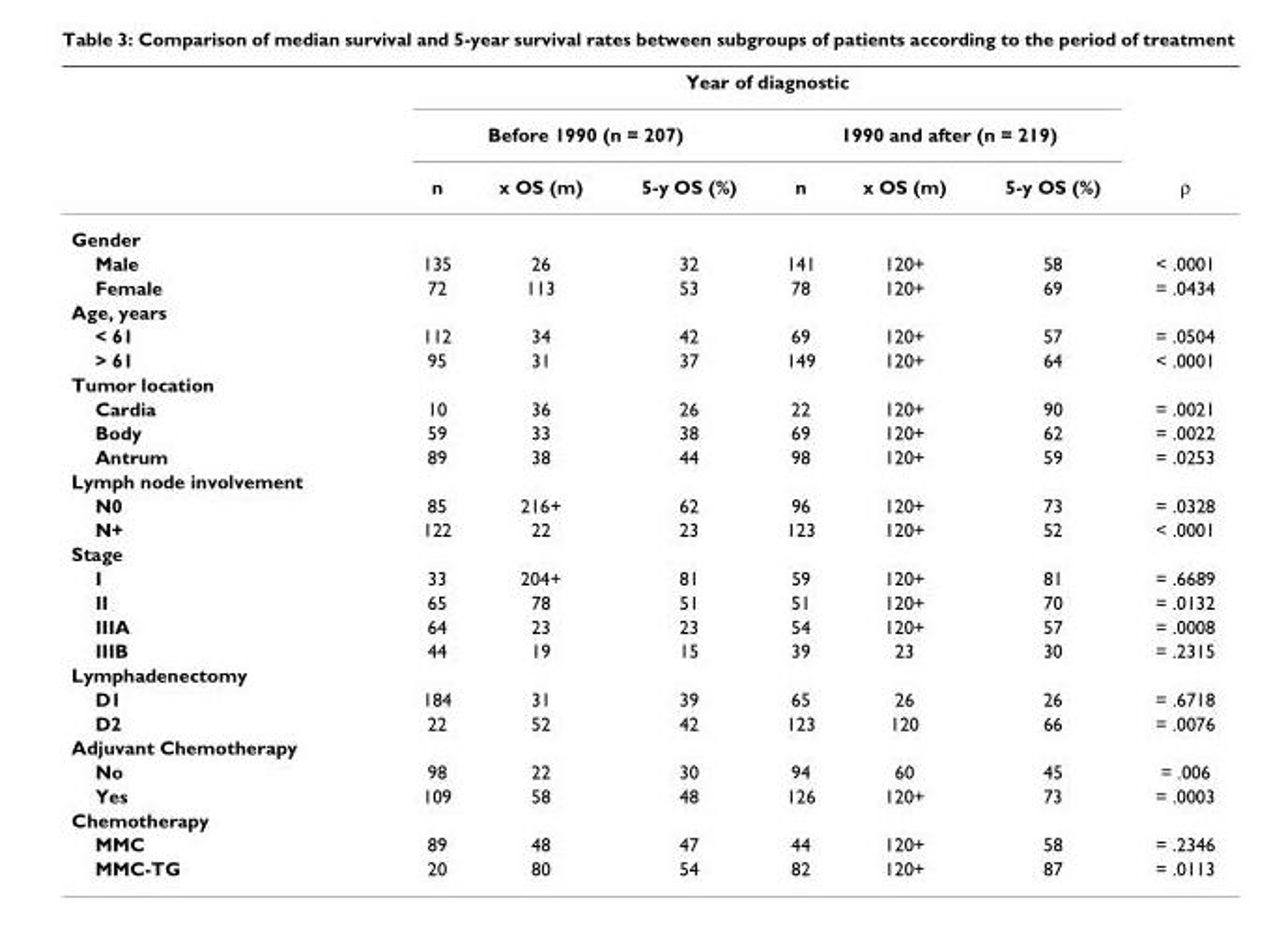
<table><thead><tr><td rowspan="3"></td><td colspan="6">Year of diagnostic</td><td rowspan="3">ρ</td></tr><tr><td colspan="3">Before 1990 (n = 207)</td><td colspan="3">1990 and after (n = 219)</td></tr><tr><td>n</td><td>x OS (m)</td><td>5-y OS (%)</td><td>n</td><td>x OS (m)</td><td>5-y OS (%)</td></tr></thead><tbody><tr><td colspan="8">Gender</td></tr><tr><td>Male</td><td>135</td><td>26</td><td>32</td><td>141</td><td>120+</td><td>58</td><td>&lt; .0001</td></tr><tr><td>Female</td><td>72</td><td>113</td><td>53</td><td>78</td><td>120+</td><td>69</td><td>= .0434</td></tr><tr><td colspan="8">Age, years</td></tr><tr><td>&lt; 61</td><td>112</td><td>34</td><td>42</td><td>69</td><td>120+</td><td>57</td><td>= .0504</td></tr><tr><td>&gt; 61</td><td>95</td><td>31</td><td>37</td><td>149</td><td>120+</td><td>64</td><td>&lt; .0001</td></tr><tr><td colspan="8">Tumor location</td></tr><tr><td>Cardia</td><td>10</td><td>36</td><td>26</td><td>22</td><td>120+</td><td>90</td><td>= .0021</td></tr><tr><td>Body</td><td>59</td><td>33</td><td>38</td><td>69</td><td>120+</td><td>62</td><td>= .0022</td></tr><tr><td>Antrum</td><td>89</td><td>38</td><td>44</td><td>98</td><td>120+</td><td>59</td><td>= .0253</td></tr><tr><td colspan="8">Lymph node involvement</td></tr><tr><td>N0</td><td>85</td><td>216+</td><td>62</td><td>96</td><td>120+</td><td>73</td><td>= .0328</td></tr><tr><td>N+</td><td>122</td><td>22</td><td>23</td><td>123</td><td>120+</td><td>52</td><td>&lt; .0001</td></tr><tr><td colspan="8">Stage</td></tr><tr><td>I</td><td>33</td><td>204+</td><td>81</td><td>59</td><td>120+</td><td>81</td><td>= .6689</td></tr><tr><td>II</td><td>65</td><td>78</td><td>51</td><td>51</td><td>120+</td><td>70</td><td>= .0132</td></tr><tr><td>IIIA</td><td>64</td><td>23</td><td>23</td><td>54</td><td>120+</td><td>57</td><td>= .0008</td></tr><tr><td>IIIB</td><td>44</td><td>19</td><td>15</td><td>39</td><td>23</td><td>30</td><td>= .2315</td></tr><tr><td colspan="8">Lymphadenectomy</td></tr><tr><td>D1</td><td>184</td><td>31</td><td>39</td><td>65</td><td>26</td><td>26</td><td>= .6718</td></tr><tr><td>D2</td><td>22</td><td>52</td><td>42</td><td>123</td><td>120</td><td>66</td><td>= .0076</td></tr><tr><td colspan="8">Adjuvant Chemotherapy</td></tr><tr><td>No</td><td>98</td><td>22</td><td>30</td><td>94</td><td>60</td><td>45</td><td>= .006</td></tr><tr><td>Yes</td><td>109</td><td>58</td><td>48</td><td>126</td><td>120+</td><td>73</td><td>= .0003</td></tr><tr><td colspan="8">Chemotherapy</td></tr><tr><td>MMC</td><td>89</td><td>48</td><td>47</td><td>44</td><td>120+</td><td>58</td><td>= .2346</td></tr><tr><td>MMC-TG</td><td>20</td><td>80</td><td>54</td><td>82</td><td>120+</td><td>87</td><td>= .0113</td></tr></tbody></table>